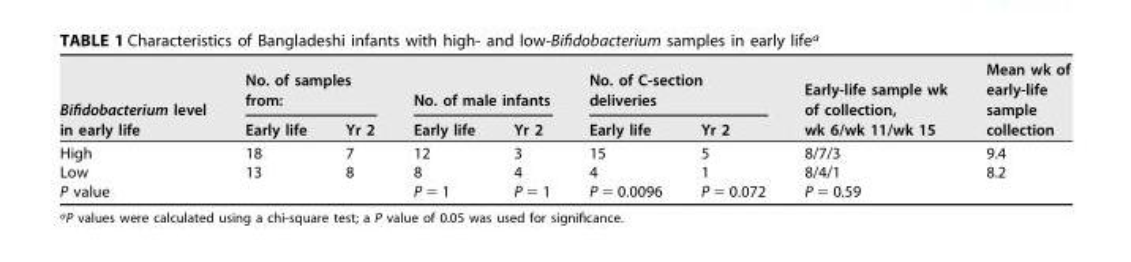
<table><thead><tr><td rowspan="2">Bifidobacterium level in early life</td><td colspan="2">No. of samples from:</td><td colspan="2">No. of male infants</td><td colspan="2">No. of C-section deliveries</td><td rowspan="2">Early-life sample wk of collection, wk 6/wk 11/wk 15</td><td rowspan="2">Mean wk of early-life sample collection</td></tr><tr><td>Early life</td><td>Yr 2</td><td>Early life</td><td>Yr 2</td><td>Early life</td><td>Yr 2</td></tr></thead><tbody><tr><td>High</td><td>18</td><td>7</td><td>12</td><td>3</td><td>15</td><td>5</td><td>8/7/3</td><td>9.4</td></tr><tr><td>Low</td><td>13</td><td>8</td><td>8</td><td>4</td><td>4</td><td>1</td><td>8/4/1</td><td>8.2</td></tr><tr><td>P value</td><td></td><td></td><td>P = 1</td><td>P = 1</td><td>P = 0.0096</td><td>P = 0.072</td><td>P = 0.59</td><td></td></tr></tbody></table>